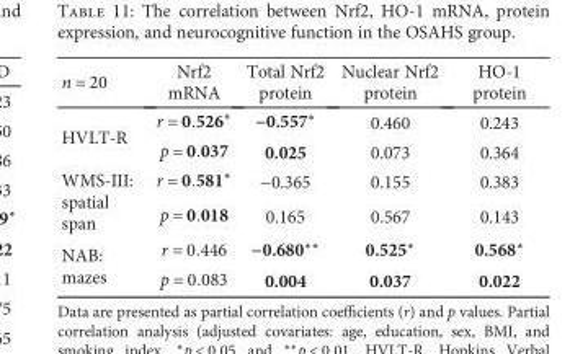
<table><thead><tr><td>n = 20</td><td>Nrf2 mRNA</td><td>Total Nrf2 protein</td><td>Nuclear Nrf2 protein</td><td>HO-1 protein</td></tr></thead><tbody><tr><td rowspan="2">HVLT-R</td><td>r = 0 526∗</td><td>−0.557∗</td><td>0.460</td><td>0.243</td></tr><tr><td>p = 0 037</td><td>0.025</td><td>0.073</td><td>0.364</td></tr><tr><td rowspan="2">WMS-III: spatial span</td><td>r = 0 581∗</td><td>−0.365</td><td>0.155</td><td>0.383</td></tr><tr><td>p = 0 018</td><td>0.165</td><td>0.567</td><td>0.143</td></tr><tr><td rowspan="2">NAB: mazes</td><td>r = 0 446</td><td>−0.680∗∗</td><td>0.525∗</td><td>0.568∗</td></tr><tr><td>p = 0 083</td><td>0.004</td><td>0.037</td><td>0.022</td></tr></tbody></table>